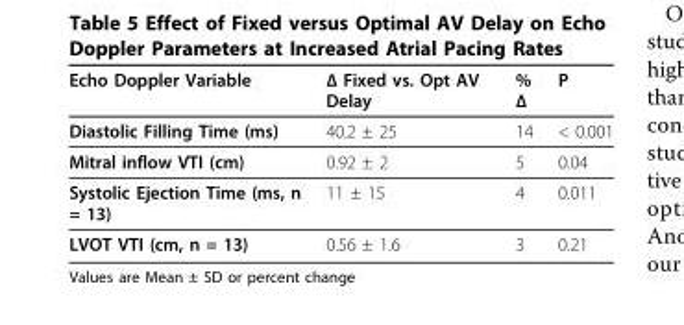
<table><thead><tr><td>Echo Doppler Variable</td><td>Δ Fixed vs. Opt AV Delay</td><td>% Δ</td><td>P</td></tr></thead><tbody><tr><td>Diastolic Filling Time (ms)</td><td>40.2 ± 25</td><td>14</td><td>&lt; 0.001</td></tr><tr><td>Mitral inflow VTI (cm)</td><td>0.92 ± 2</td><td>5</td><td>0.04</td></tr><tr><td>Systolic Ejection Time (ms, n = 13)</td><td>11 ± 15</td><td>4</td><td>0.011</td></tr><tr><td>LVOT VTI (cm, n = 13)</td><td>0.56 ± 1.6</td><td>3</td><td>0.21</td></tr></tbody></table>